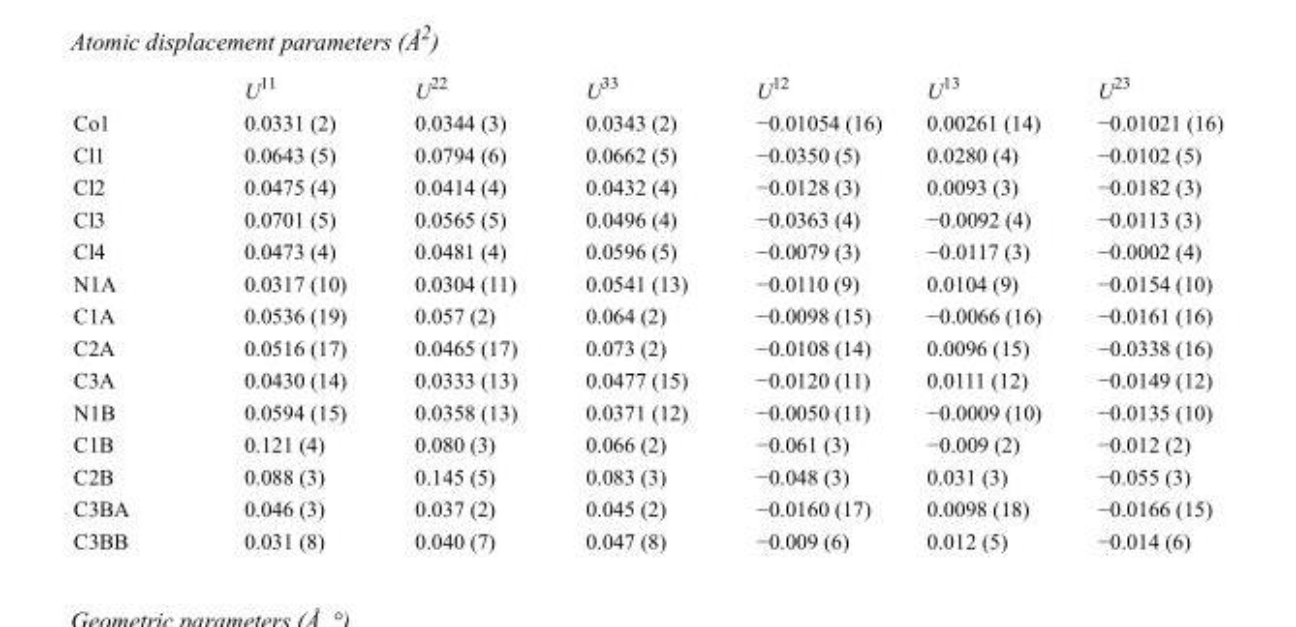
<table><thead><tr><td></td><td>U<sup>11</sup></td><td>U<sup>22</sup></td><td>U<sup>33</sup></td><td>U<sup>12</sup></td><td>U<sup>13</sup></td><td>U<sup>23</sup></td></tr></thead><tbody><tr><td>Co1</td><td>0.0331 (2)</td><td>0.0344 (3)</td><td>0.0343 (2)</td><td>−0.01054 (16)</td><td>0.00261 (14)</td><td>−0.01021 (16)</td></tr><tr><td>Cl1</td><td>0.0643 (5)</td><td>0.0794 (6)</td><td>0.0662 (5)</td><td>−0.0350 (5)</td><td>0.0280 (4)</td><td>−0.0102 (5)</td></tr><tr><td>Cl2</td><td>0.0475 (4)</td><td>0.0414 (4)</td><td>0.0432 (4)</td><td>−0.0128 (3)</td><td>0.0093 (3)</td><td>−0.0182 (3)</td></tr><tr><td>Cl3</td><td>0.0701 (5)</td><td>0.0565 (5)</td><td>0.0496 (4)</td><td>−0.0363 (4)</td><td>−0.0092 (4)</td><td>−0.0113 (3)</td></tr><tr><td>Cl4</td><td>0.0473 (4)</td><td>0.0481 (4)</td><td>0.0596 (5)</td><td>−0.0079 (3)</td><td>−0.0117 (3)</td><td>−0.0002 (4)</td></tr><tr><td>N1A</td><td>0.0317 (10)</td><td>0.0304 (11)</td><td>0.0541 (13)</td><td>−0.0110 (9)</td><td>0.0104 (9)</td><td>−0.0154 (10)</td></tr><tr><td>C1A</td><td>0.0536 (19)</td><td>0.057 (2)</td><td>0.064 (2)</td><td>−0.0098 (15)</td><td>−0.0066 (16)</td><td>−0.0161 (16)</td></tr><tr><td>C2A</td><td>0.0516 (17)</td><td>0.0465 (17)</td><td>0.073 (2)</td><td>−0.0108 (14)</td><td>0.0096 (15)</td><td>−0.0338 (16)</td></tr><tr><td>C3A</td><td>0.0430 (14)</td><td>0.0333 (13)</td><td>0.0477 (15)</td><td>−0.0120 (11)</td><td>0.0111 (12)</td><td>−0.0149 (12)</td></tr><tr><td>N1B</td><td>0.0594 (15)</td><td>0.0358 (13)</td><td>0.0371 (12)</td><td>−0.0050 (11)</td><td>−0.0009 (10)</td><td>−0.0135 (10)</td></tr><tr><td>C1B</td><td>0.121 (4)</td><td>0.080 (3)</td><td>0.066 (2)</td><td>−0.061 (3)</td><td>−0.009 (2)</td><td>−0.012 (2)</td></tr><tr><td>C2B</td><td>0.088 (3)</td><td>0.145 (5)</td><td>0.083 (3)</td><td>−0.048 (3)</td><td>0.031 (3)</td><td>−0.055 (3)</td></tr><tr><td>C3BA</td><td>0.046 (3)</td><td>0.037 (2)</td><td>0.045 (2)</td><td>−0.0160 (17)</td><td>0.0098 (18)</td><td>−0.0166 (15)</td></tr><tr><td>C3BB</td><td>0.031 (8)</td><td>0.040 (7)</td><td>0.047 (8)</td><td>−0.009 (6)</td><td>0.012 (5)</td><td>−0.014 (6)</td></tr></tbody></table>